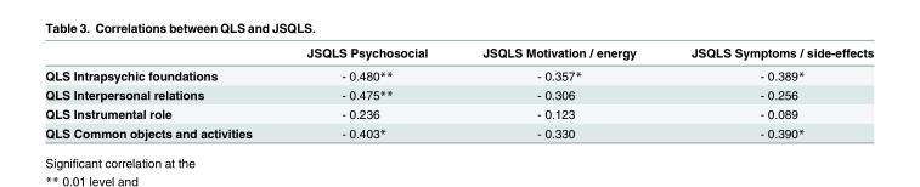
<table><thead><tr><td></td><td>JSQLS Psychosocial</td><td>JSQLS Motivation / energy</td><td>JSQLS Symptoms / side-effects</td></tr></thead><tbody><tr><td>QLS Intrapsychic foundations</td><td>- 0.480**</td><td>- 0.357*</td><td>- 0.389*</td></tr><tr><td>QLS Interpersonal relations</td><td>- 0.475**</td><td>- 0.306</td><td>- 0.256</td></tr><tr><td>QLS Instrumental role</td><td>- 0.236</td><td>- 0.123</td><td>- 0.089</td></tr><tr><td>QLS Common objects and activities</td><td>- 0.403*</td><td>- 0.330</td><td>- 0.390*</td></tr></tbody></table>